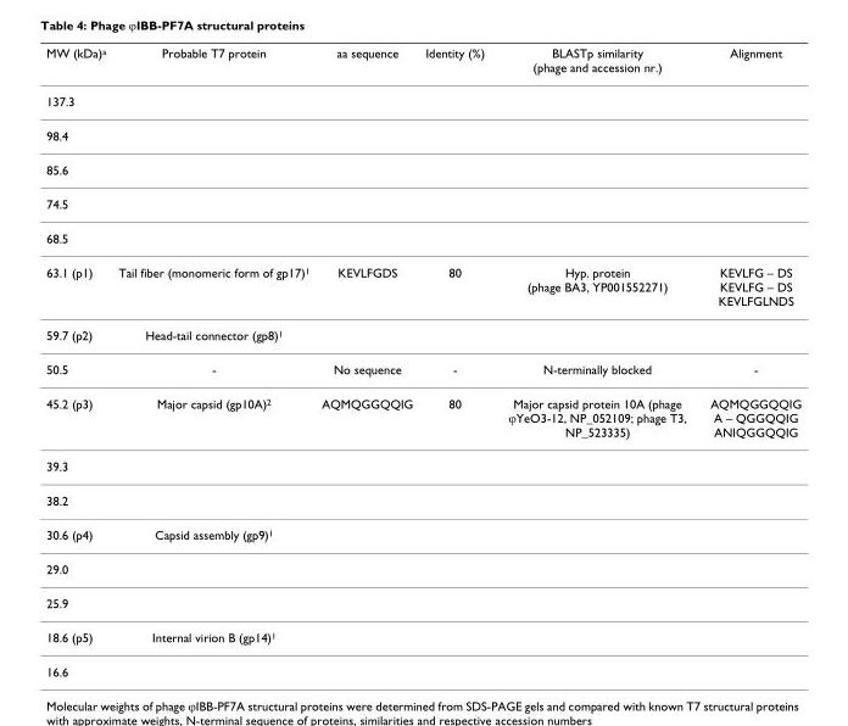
<table><thead><tr><td>MW (kDa)<sup>a</sup></td><td>Probable T7 protein</td><td>aa sequence</td><td>Identity (%)</td><td>BLASTp similarity (phage and accession nr.)</td><td>Alignment</td></tr></thead><tbody><tr><td colspan="6">137.3</td></tr><tr><td colspan="6">98.4</td></tr><tr><td colspan="6">85.6</td></tr><tr><td colspan="6">74.5</td></tr><tr><td colspan="6">68.5</td></tr><tr><td>63.1 (p1)</td><td>Tail fiber (monomeric form of gp17)<sup>1</sup></td><td>KEVLFGDS</td><td>80</td><td>Hyp. protein (phage BA3, YP001552271)</td><td>KEVLFG – DS KEVLFG – DS KEVLFGLNDS</td></tr><tr><td>59.7 (p2)</td><td>Head-tail connector (gp8)<sup>1</sup></td><td></td><td></td><td></td><td></td></tr><tr><td>50.5</td><td>-</td><td>No sequence</td><td>-</td><td>N-terminally blocked</td><td>-</td></tr><tr><td>45.2 (p3)</td><td>Major capsid (gp10A)<sup>2</sup></td><td>AQMQGGQQIG</td><td>80</td><td>Major capsid protein 10A (phage ϕYeO3-12, NP_052109; phage T3, NP_523335)</td><td>AQMQGGQQIG A – QGGQQIG ANIQGGQQIG</td></tr><tr><td colspan="6">39.3</td></tr><tr><td colspan="6">38.2</td></tr><tr><td>30.6 (p4)</td><td>Capsid assembly (gp9)<sup>1</sup></td><td></td><td></td><td></td><td></td></tr><tr><td colspan="6">29.0</td></tr><tr><td colspan="6">25.9</td></tr><tr><td>18.6 (p5)</td><td>Internal virion B (gp14)<sup>1</sup></td><td></td><td></td><td></td><td></td></tr><tr><td>16.6</td><td></td><td></td><td></td><td></td><td></td></tr></tbody></table>